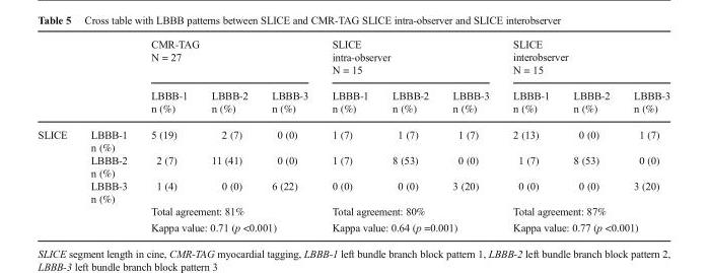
<table><thead><tr><td rowspan="2"></td><td rowspan="2"></td><td colspan="3">CMR-TAG N = 27</td><td colspan="3">SLICE intra-observer N = 15</td><td colspan="3">SLICE interobserver N = 15</td></tr><tr><td>LBBB-1 n (%)</td><td>LBBB-2 n (%)</td><td>LBBB-3 n (%)</td><td>LBBB-1 n (%)</td><td>LBBB-2 n (%)</td><td>LBBB-3 n (%)</td><td>LBBB-1 n (%)</td><td>LBBB-2 n (%)</td><td>LBBB-3 n (%)</td></tr></thead><tbody><tr><td rowspan="3">SLICE</td><td>LBBB-1 n (%)</td><td>5 (19)</td><td>2 (7)</td><td>0 (0)</td><td>1 (7)</td><td>1 (7)</td><td>1 (7)</td><td>2 (13)</td><td>0 (0)</td><td>1 (7)</td></tr><tr><td>LBBB-2 n (%)</td><td>2 (7)</td><td>11 (41)</td><td>0 (0)</td><td>1 (7)</td><td>8 (53)</td><td>0 (0)</td><td>1 (7)</td><td>8 (53)</td><td>0 (0)</td></tr><tr><td>LBBB-3 n (%)</td><td>1 (4)</td><td>0 (0)</td><td>6 (22)</td><td>0 (0)</td><td>0 (0)</td><td>3 (20)</td><td>0 (0)</td><td>0 (0)</td><td>3 (20)</td></tr><tr><td rowspan="2" colspan="2"></td><td colspan="3">Total agreement: 81%</td><td colspan="3">Total agreement: 80%</td><td colspan="3">Total agreement: 87%</td></tr><tr><td colspan="3">Kappa value: 0.71 (p &lt;0.001)</td><td colspan="3">Kappa value: 0.64 (p =0.001)</td><td colspan="3">Kappa value: 0.77 (p &lt;0.001)</td></tr></tbody></table>